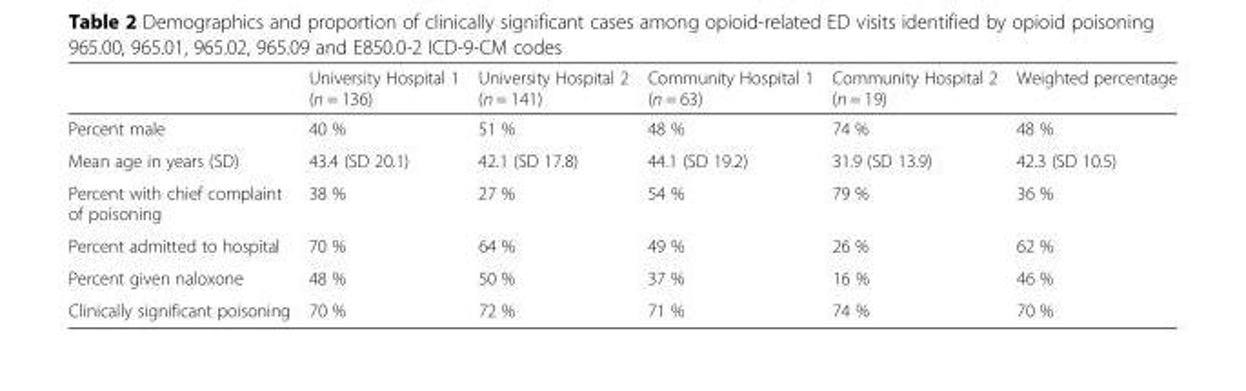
<table><thead><tr><td></td><td>University Hospital 1 (n = 136)</td><td>University Hospital 2 (n = 141)</td><td>Community Hospital 1 (n = 63)</td><td>Community Hospital 2 (n = 19)</td><td>Weighted percentage</td></tr></thead><tbody><tr><td>Percent male</td><td>40 %</td><td>51 %</td><td>48 %</td><td>74 %</td><td>48 %</td></tr><tr><td>Mean age in years (SD)</td><td>43.4 (SD 20.1)</td><td>42.1 (SD 17.8)</td><td>44.1 (SD 19.2)</td><td>31.9 (SD 13.9)</td><td>42.3 (SD 10.5)</td></tr><tr><td>Percent with chief complaint of poisoning</td><td>38 %</td><td>27 %</td><td>54 %</td><td>79 %</td><td>36 %</td></tr><tr><td>Percent admitted to hospital</td><td>70 %</td><td>64 %</td><td>49 %</td><td>26 %</td><td>62 %</td></tr><tr><td>Percent given naloxone</td><td>48 %</td><td>50 %</td><td>37 %</td><td>16 %</td><td>46 %</td></tr><tr><td>Clinically significant poisoning</td><td>70 %</td><td>72 %</td><td>71 %</td><td>74 %</td><td>70 %</td></tr></tbody></table>